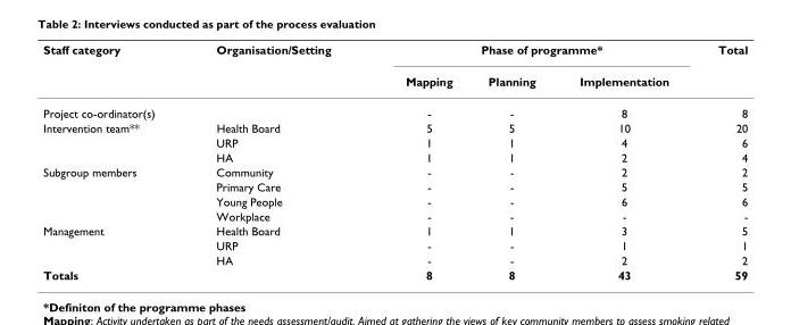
<table><thead><tr><td rowspan="2">Staff category</td><td rowspan="2">Organisation/Setting</td><td colspan="3">Phase of programme*</td><td rowspan="2">Total</td></tr><tr><td>Mapping</td><td>Planning</td><td>Implementation</td></tr></thead><tbody><tr><td>Project co-ordinator(s)</td><td></td><td>-</td><td>-</td><td>8</td><td>8</td></tr><tr><td rowspan="3">Intervention team**</td><td>Health Board</td><td>5</td><td>5</td><td>10</td><td>20</td></tr><tr><td>URP</td><td>1</td><td>1</td><td>4</td><td>6</td></tr><tr><td>HA</td><td>1</td><td>1</td><td>2</td><td>4</td></tr><tr><td rowspan="4">Subgroup members</td><td>Community</td><td>-</td><td>-</td><td>2</td><td>2</td></tr><tr><td>Primary Care</td><td>-</td><td>-</td><td>5</td><td>5</td></tr><tr><td>Young People</td><td>-</td><td>-</td><td>6</td><td>6</td></tr><tr><td>Workplace</td><td>-</td><td>-</td><td>-</td><td>-</td></tr><tr><td rowspan="3">Management</td><td>Health Board</td><td>1</td><td>1</td><td>3</td><td>5</td></tr><tr><td>URP</td><td>-</td><td>-</td><td>1</td><td>1</td></tr><tr><td>HA</td><td>-</td><td>-</td><td>2</td><td>2</td></tr><tr><td colspan="2">Totals</td><td>8</td><td>8</td><td>43</td><td>59</td></tr></tbody></table>